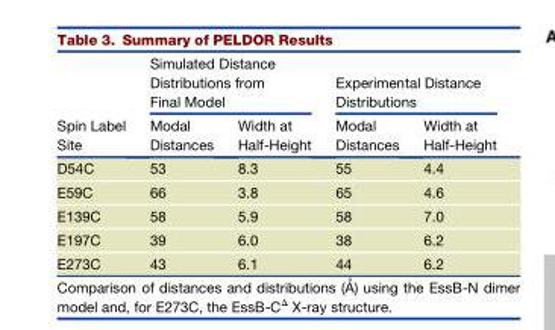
<table><thead><tr><td rowspan="2">Spin Label Site</td><td colspan="2">Simulated Distance Distributions from Final Model</td><td colspan="2">Experimental Distance Distributions</td></tr><tr><td>Modal Distances</td><td>Width at Half-Height</td><td>Modal Distances</td><td>Width at Half-Height</td></tr></thead><tbody><tr><td>D54C</td><td>53</td><td>8.3</td><td>55</td><td>4.4</td></tr><tr><td>E59C</td><td>66</td><td>3.8</td><td>65</td><td>4.6</td></tr><tr><td>E139C</td><td>58</td><td>5.9</td><td>58</td><td>7.0</td></tr><tr><td>E197C</td><td>39</td><td>6.0</td><td>38</td><td>6.2</td></tr><tr><td>E273C</td><td>43</td><td>6.1</td><td>44</td><td>6.2</td></tr></tbody></table>